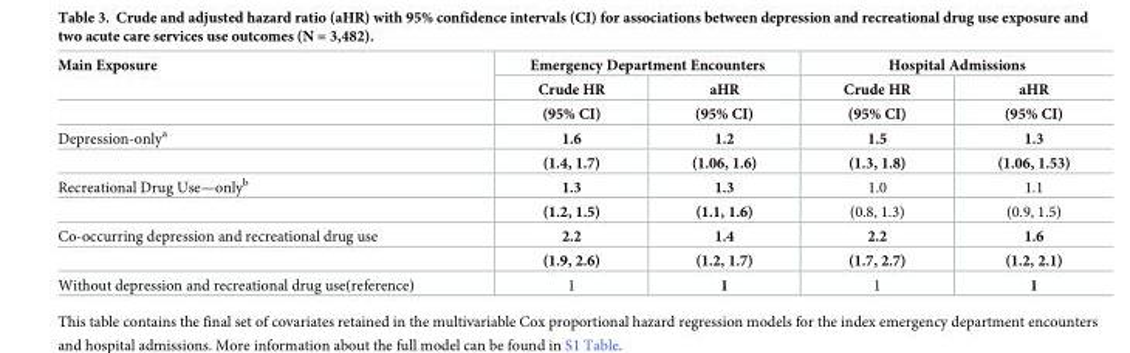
<table><thead><tr><td rowspan="3">Main Exposure</td><td colspan="2">Emergency Department Encounters</td><td colspan="2">Hospital Admissions</td></tr><tr><td rowspan="2">Crude HR (95% CI)</td><td rowspan="2">aHR (95% CI)</td><td rowspan="2">Crude HR (95% CI)</td><td rowspan="2">aHR (95% CI)</td></tr><tr></tr></thead><tbody><tr><td rowspan="2">Depression-only<sup>a</sup></td><td>1.6</td><td>1.2</td><td>1.5</td><td>1.3</td></tr><tr><td>(1.4, 1.7)</td><td>(1.06, 1.6)</td><td>(1.3, 1.8)</td><td>(1.06, 1.53)</td></tr><tr><td rowspan="2">Recreational Drug Use—only<sup>b</sup></td><td>1.3</td><td>1.3</td><td>1.0</td><td>1.1</td></tr><tr><td>(1.2, 1.5)</td><td>(1.1, 1.6)</td><td>(0.8, 1.3)</td><td>(0.9, 1.5)</td></tr><tr><td rowspan="2">Co-occurring depression and recreational drug use</td><td>2.2</td><td>1.4</td><td>2.2</td><td>1.6</td></tr><tr><td>(1.9, 2.6)</td><td>(1.2, 1.7)</td><td>(1.7, 2.7)</td><td>(1.2, 2.1)</td></tr><tr><td>Without depression and recreational drug use(reference)</td><td>1</td><td>1</td><td>1</td><td>1</td></tr></tbody></table>